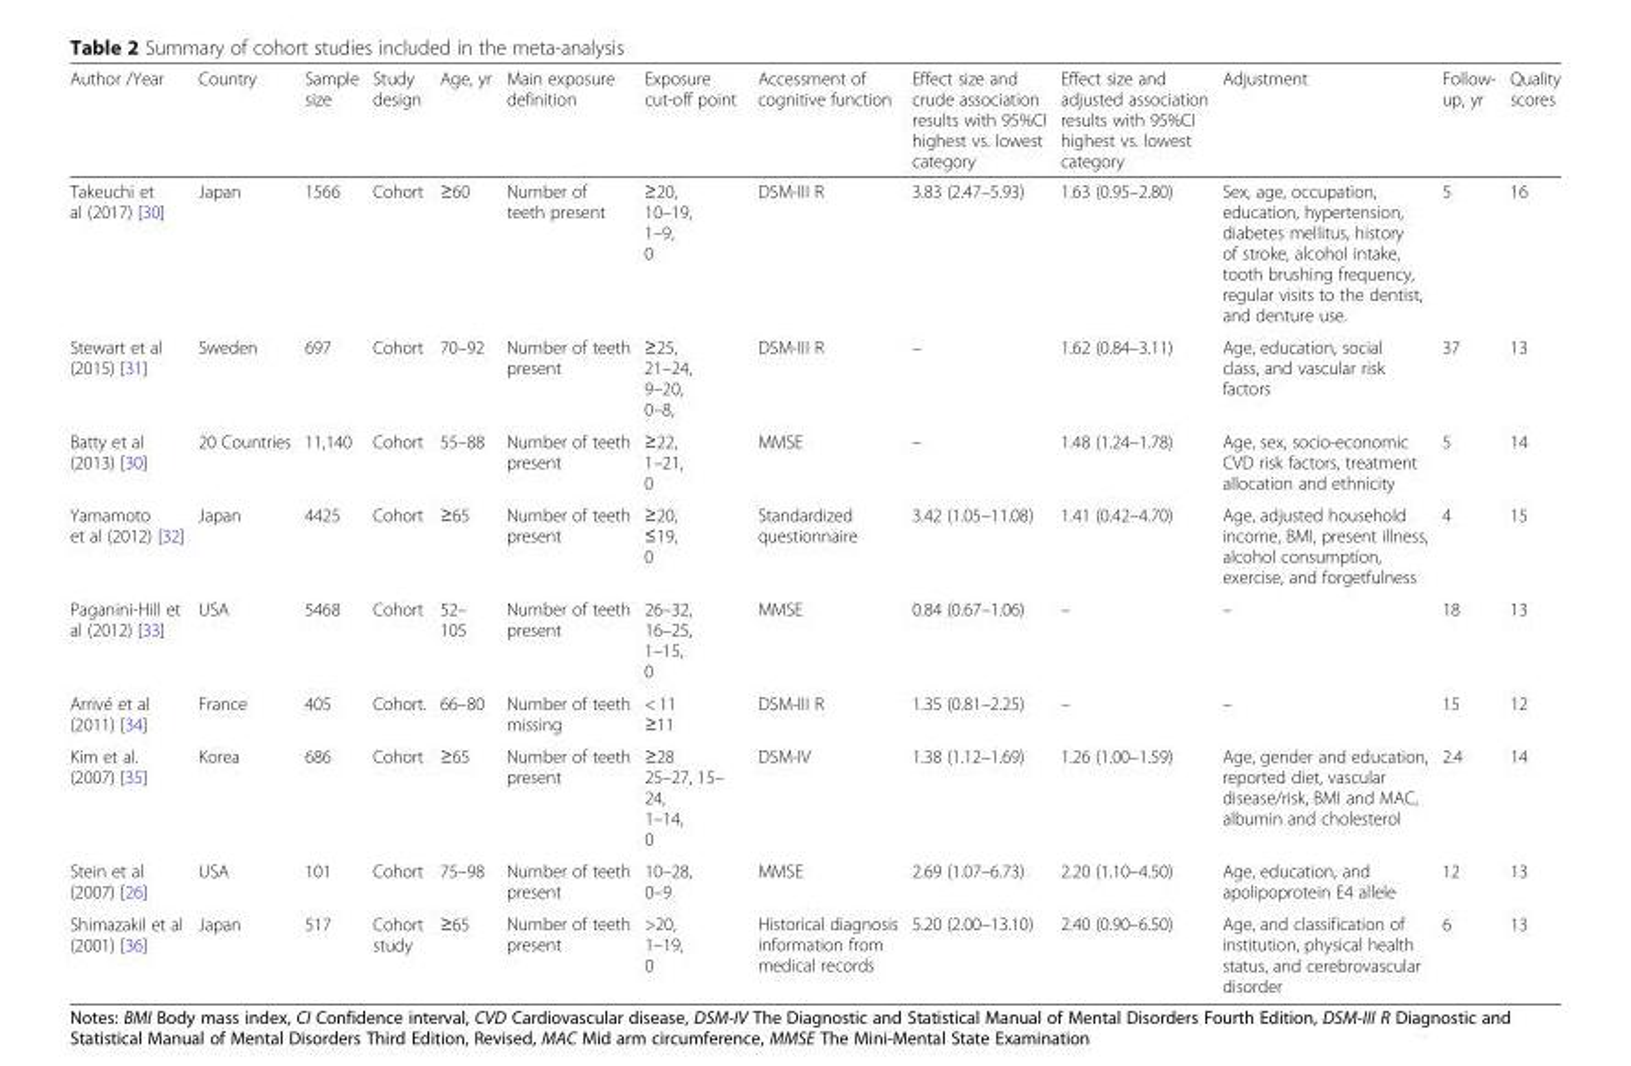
<table><thead><tr><td>Author /Year</td><td>Country</td><td>Sample size</td><td>Study design</td><td>Age, yr</td><td>Main exposure definition</td><td>Exposure cut-off point</td><td>Accessment of cognitive function</td><td>Effect size and crude association results with 95%CI highest vs. lowest category</td><td>Effect size and adjusted association results with 95%CI highest vs. lowest category</td><td>Adjustment</td><td>Follow- up, yr</td><td>Quality scores</td></tr></thead><tbody><tr><td>Takeuchi et al (2017) [30]</td><td>Japan</td><td>1566</td><td>Cohort</td><td>≥60</td><td>Number of teeth present</td><td>≥20, 10–19, 1–9, 0</td><td>DSM-III R</td><td>3.83 (2.47–5.93)</td><td>1.63 (0.95–2.80)</td><td>Sex, age, occupation, education, hypertension, diabetes mellitus, history of stroke, alcohol intake, tooth brushing frequency, regular visits to the dentist, and denture use.</td><td>5</td><td>16</td></tr><tr><td>Stewart et al (2015) [31]</td><td>Sweden</td><td>697</td><td>Cohort</td><td>70–92</td><td>Number of teeth present</td><td>≥25, 21–24, 9–20, 0–8,</td><td>DSM-III R</td><td>–</td><td>1.62 (0.84–3.11)</td><td>Age, education, social class, and vascular risk factors</td><td>37</td><td>13</td></tr><tr><td>Batty et al (2013) [30]</td><td>20 Countries</td><td>11,140</td><td>Cohort</td><td>55–88</td><td>Number of teeth present</td><td>≥22, 1–21, 0</td><td>MMSE</td><td>–</td><td>1.48 (1.24–1.78)</td><td>Age, sex, socio-economic CVD risk factors, treatment allocation and ethnicity</td><td>5</td><td>14</td></tr><tr><td>Yamamoto et al (2012) [32]</td><td>Japan</td><td>4425</td><td>Cohort</td><td>≥65</td><td>Number of teeth present</td><td>≥20, ≤19, 0</td><td>Standardized questionnaire</td><td>3.42 (1.05–11.08)</td><td>1.41 (0.42–4.70)</td><td>Age, adjusted household income, BMI, present illness, alcohol consumption, exercise, and forgetfulness</td><td>4</td><td>15</td></tr><tr><td>Paganini-Hill et al (2012) [33]</td><td>USA</td><td>5468</td><td>Cohort</td><td>52– 105</td><td>Number of teeth present</td><td>26–32, 16–25, 1–15, 0</td><td>MMSE</td><td>0.84 (0.67–1.06)</td><td>–</td><td>–</td><td>18</td><td>13</td></tr><tr><td>Arrivé et al (2011) [34]</td><td>France</td><td>405</td><td>Cohort.</td><td>66–80</td><td>Number of teeth missing</td><td>&lt; 11 ≥11</td><td>DSM-III R</td><td>1.35 (0.81–2.25)</td><td>–</td><td>–</td><td>15</td><td>12</td></tr><tr><td>Kim et al. (2007) [35]</td><td>Korea</td><td>686</td><td>Cohort</td><td>≥65</td><td>Number of teeth present</td><td>≥28 25–27, 15– 24, 1–14, 0</td><td>DSM-IV</td><td>1.38 (1.12–1.69)</td><td>1.26 (1.00–1.59)</td><td>Age, gender and education, reported diet, vascular disease/risk, BMI and MAC, albumin and cholesterol</td><td>2.4</td><td>14</td></tr><tr><td>Stein et al (2007) [26]</td><td>USA</td><td>101</td><td>Cohort</td><td>75–98</td><td>Number of teeth present</td><td>10–28, 0–9</td><td>MMSE</td><td>2.69 (1.07–6.73)</td><td>2.20 (1.10–4.50)</td><td>Age, education, and apolipoprotein E4 allele</td><td>12</td><td>13</td></tr><tr><td>Shimazakil et al (2001) [36]</td><td>Japan</td><td>517</td><td>Cohort study</td><td>≥65</td><td>Number of teeth present</td><td>&gt;20, 1–19, 0</td><td>Historical diagnosis information from medical records</td><td>5.20 (2.00–13.10)</td><td>2.40 (0.90–6.50)</td><td>Age, and classification of institution, physical health status, and cerebrovascular disorder</td><td>6</td><td>13</td></tr></tbody></table>